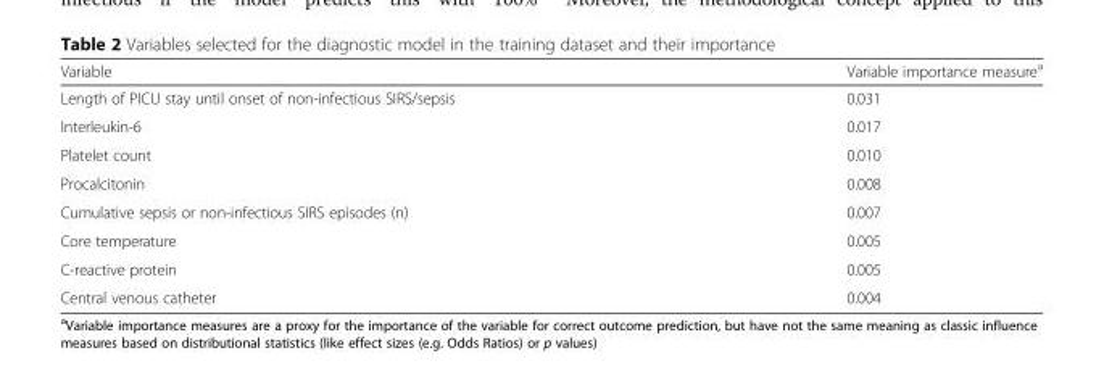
<table><thead><tr><td>Variable</td><td>Variable importance measure<sup>a</sup></td></tr></thead><tbody><tr><td>Length of PICU stay until onset of non-infectious SIRS/sepsis</td><td>0.031</td></tr><tr><td>Interleukin-6</td><td>0.017</td></tr><tr><td>Platelet count</td><td>0.010</td></tr><tr><td>Procalcitonin</td><td>0.008</td></tr><tr><td>Cumulative sepsis or non-infectious SIRS episodes (n)</td><td>0.007</td></tr><tr><td>Core temperature</td><td>0.005</td></tr><tr><td>C-reactive protein</td><td>0.005</td></tr><tr><td>Central venous catheter</td><td>0.004</td></tr></tbody></table>